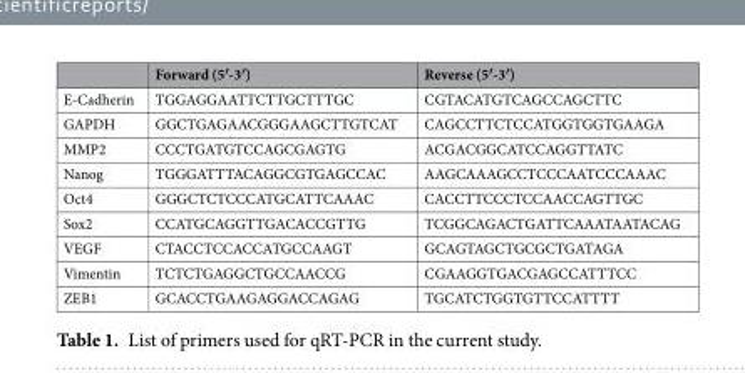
<table><thead><tr><td></td><td>Forward (5′-3′)</td><td>Reverse (5′-3′)</td></tr></thead><tbody><tr><td>E-Cadherin</td><td>TGGAGGAATTCTTGCTTTGC</td><td>CGTACATGTCAGCCAGCTTC</td></tr><tr><td>GAPDH</td><td>GGCTGAGAACGGGAAGCTTGTCAT</td><td>CAGCCTTCTCCATGGTGGTGAAGA</td></tr><tr><td>MMP2</td><td>CCCTGATGTCCAGCGAGTG</td><td>ACGACGGCATCCAGGTTATC</td></tr><tr><td>Nanog</td><td>TGGGATTTACAGGCGTGAGCCAC</td><td>AAGCAAAGCCTCCCAATCCCAAAC</td></tr><tr><td>Oct4</td><td>GGGCTCTCCCATGCATTCAAAC</td><td>CACCTTCCCTCCAACCAGTTGC</td></tr><tr><td>Sox2</td><td>CCATGCAGGTTGACACCGTTG</td><td>TCGGCAGACTGATTCAAATAATACAG</td></tr><tr><td>VEGF</td><td>CTACCTCCACCATGCCAAGT</td><td>GCAGTAGCTGCGCTGATAGA</td></tr><tr><td>Vimentin</td><td>TCTCTGAGGCTGCCAACCG</td><td>CGAAGGTGACGAGCCATTTCC</td></tr><tr><td>ZEB1</td><td>GCACCTGAAGAGGACCAGAG</td><td>TGCATCTGGTGTTCCATTTT</td></tr></tbody></table>